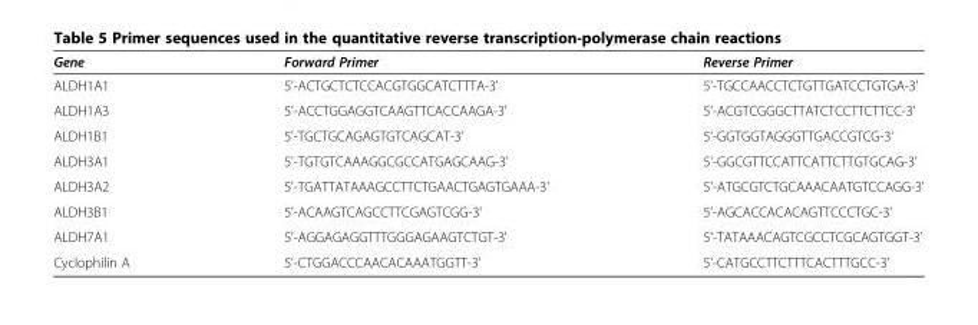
<table><thead><tr><td>Gene</td><td>Forward Primer</td><td>Reverse Primer</td></tr></thead><tbody><tr><td>ALDH1A1</td><td>5&#x27;-ACTGCTCTCCACGTGGCATCTTTA-3&#x27;</td><td>5&#x27;-TGCCAACCTCTGTTGATCCTGTGA-3&#x27;</td></tr><tr><td>ALDH1A3</td><td>5&#x27;-ACCTGGAGGTCAAGTTCACCAAGA-3&#x27;</td><td>5&#x27;-ACGTCGGGCTTATCTCCTTCTTCC-3&#x27;</td></tr><tr><td>ALDH1B1</td><td>5&#x27;-TGCTGCAGAGTGTCAGCAT-3&#x27;</td><td>5&#x27;-GGTGGTAGGGTTGACCGTCG-3&#x27;</td></tr><tr><td>ALDH3A1</td><td>5&#x27;-TGTGTCAAAGGCGCCATGAGCAAG-3&#x27;</td><td>5&#x27;-GGCGTTCCATTCATTCTTGTGCAG-3&#x27;</td></tr><tr><td>ALDH3A2</td><td>5&#x27;-TGATTATAAAGCCTTCTGAACTGAGTGAAA-3&#x27;</td><td>5&#x27;-ATGCGTCTGCAAACAATGTCCAGG-3&#x27;</td></tr><tr><td>ALDH3B1</td><td>5&#x27;-ACAAGTCAGCCTTCGAGTCGG-3&#x27;</td><td>5&#x27;-AGCACCACACAGTTCCCTGC-3&#x27;</td></tr><tr><td>ALDH7A1</td><td>5&#x27;-AGGAGAGGTTTGGGAGAAGTCTGT-3&#x27;</td><td>5&#x27;-TATAAACAGTCGCCTCGCAGTGGT-3&#x27;</td></tr><tr><td>Cyclophilin A</td><td>5&#x27;-CTGGACCCAACACAAATGGTT-3&#x27;</td><td>5&#x27;-CATGCCTTCTTTCACTTTGCC-3&#x27;</td></tr></tbody></table>